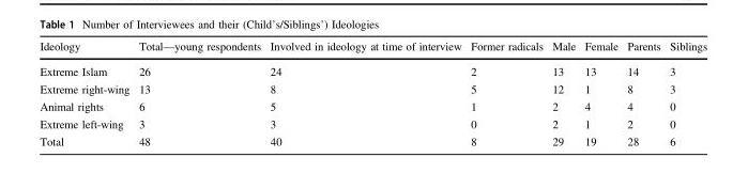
<table><thead><tr><td>Ideology</td><td>Total—young respondents</td><td>Involved in ideology at time of interview</td><td>Former radicals</td><td>Male</td><td>Female</td><td>Parents</td><td>Siblings</td></tr></thead><tbody><tr><td>Extreme Islam</td><td>26</td><td>24</td><td>2</td><td>13</td><td>13</td><td>14</td><td>3</td></tr><tr><td>Extreme right-wing</td><td>13</td><td>8</td><td>5</td><td>12</td><td>1</td><td>8</td><td>3</td></tr><tr><td>Animal rights</td><td>6</td><td>5</td><td>1</td><td>2</td><td>4</td><td>4</td><td>0</td></tr><tr><td>Extreme left-wing</td><td>3</td><td>3</td><td>0</td><td>2</td><td>1</td><td>2</td><td>0</td></tr><tr><td>Total</td><td>48</td><td>40</td><td>8</td><td>29</td><td>19</td><td>28</td><td>6</td></tr></tbody></table>